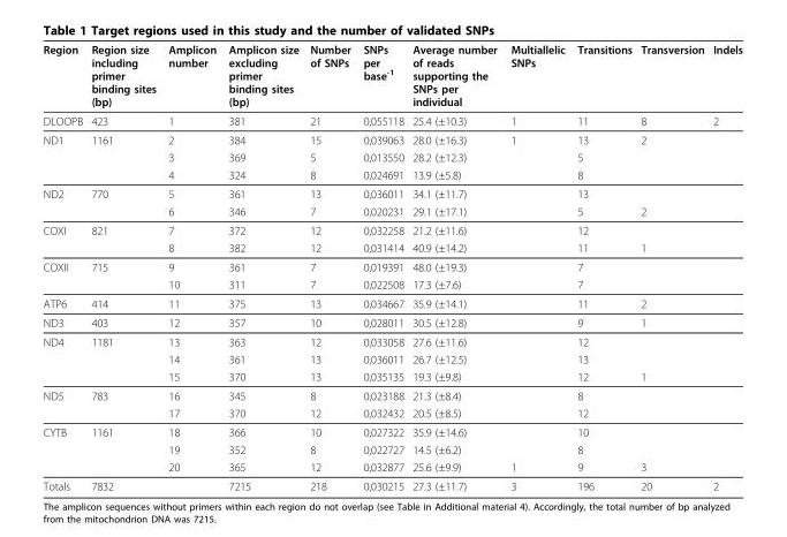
<table><thead><tr><td>Region</td><td>Region size including primer binding sites (bp)</td><td>Amplicon number</td><td>Amplicon size excluding primer binding sites (bp)</td><td>Number of SNPs</td><td>SNPs per base<sup>-1</sup></td><td>Average number of reads supporting the SNPs per individual</td><td>Multiallelic SNPs</td><td>Transitions</td><td>Transversion</td><td>Indels</td></tr></thead><tbody><tr><td>DLOOPB</td><td>423</td><td>1</td><td>381</td><td>21</td><td>0,055118</td><td>25.4 (±10.3)</td><td>1</td><td>11</td><td>8</td><td>2</td></tr><tr><td rowspan="3">ND1</td><td>1161</td><td>2</td><td>384</td><td>15</td><td>0,039063</td><td>28.0 (±16.3)</td><td>1</td><td>13</td><td>2</td><td></td></tr><tr><td></td><td>3</td><td>369</td><td>5</td><td>0,013550</td><td>28.2 (±12.3)</td><td></td><td>5</td><td></td><td></td></tr><tr><td></td><td>4</td><td>324</td><td>8</td><td>0,024691</td><td>13.9 (±5.8)</td><td></td><td>8</td><td></td><td></td></tr><tr><td rowspan="2">ND2</td><td>770</td><td>5</td><td>361</td><td>13</td><td>0,036011</td><td>34.1 (±11.7)</td><td></td><td>13</td><td></td><td></td></tr><tr><td></td><td>6</td><td>346</td><td>7</td><td>0,020231</td><td>29.1 (±17.1)</td><td></td><td>5</td><td>2</td><td></td></tr><tr><td rowspan="2">COXI</td><td>821</td><td>7</td><td>372</td><td>12</td><td>0,032258</td><td>21.2 (±11.6)</td><td></td><td>12</td><td></td><td></td></tr><tr><td></td><td>8</td><td>382</td><td>12</td><td>0,031414</td><td>40.9 (±14.2)</td><td></td><td>11</td><td>1</td><td></td></tr><tr><td rowspan="2">COXII</td><td>715</td><td>9</td><td>361</td><td>7</td><td>0,019391</td><td>48.0 (±19.3)</td><td></td><td>7</td><td></td><td></td></tr><tr><td></td><td>10</td><td>311</td><td>7</td><td>0,022508</td><td>17.3 (±7.6)</td><td></td><td>7</td><td></td><td></td></tr><tr><td>ATP6</td><td>414</td><td>11</td><td>375</td><td>13</td><td>0,034667</td><td>35.9 (±14.1)</td><td></td><td>11</td><td>2</td><td></td></tr><tr><td>ND3</td><td>403</td><td>12</td><td>357</td><td>10</td><td>0,028011</td><td>30.5 (±12.8)</td><td></td><td>9</td><td>1</td><td></td></tr><tr><td rowspan="3">ND4</td><td>1181</td><td>13</td><td>363</td><td>12</td><td>0,033058</td><td>27.6 (±11.6)</td><td></td><td>12</td><td></td><td></td></tr><tr><td></td><td>14</td><td>361</td><td>13</td><td>0,036011</td><td>26.7 (±12.5)</td><td></td><td>13</td><td></td><td></td></tr><tr><td></td><td>15</td><td>370</td><td>13</td><td>0,035135</td><td>19.3 (±9.8)</td><td></td><td>12</td><td>1</td><td></td></tr><tr><td rowspan="2">ND5</td><td>783</td><td>16</td><td>345</td><td>8</td><td>0,023188</td><td>21.3 (±8.4)</td><td></td><td>8</td><td></td><td></td></tr><tr><td></td><td>17</td><td>370</td><td>12</td><td>0,032432</td><td>20.5 (±8.5)</td><td></td><td>12</td><td></td><td></td></tr><tr><td rowspan="3">CYTB</td><td>1161</td><td>18</td><td>366</td><td>10</td><td>0,027322</td><td>35.9 (±14.6)</td><td></td><td>10</td><td></td><td></td></tr><tr><td></td><td>19</td><td>352</td><td>8</td><td>0,022727</td><td>14.5 (±6.2)</td><td></td><td>8</td><td></td><td></td></tr><tr><td></td><td>20</td><td>365</td><td>12</td><td>0,032877</td><td>25.6 (±9.9)</td><td>1</td><td>9</td><td>3</td><td></td></tr><tr><td>Totals</td><td>7832</td><td></td><td>7215</td><td>218</td><td>0,030215</td><td>27.3 (±11.7)</td><td>3</td><td>196</td><td>20</td><td>2</td></tr></tbody></table>